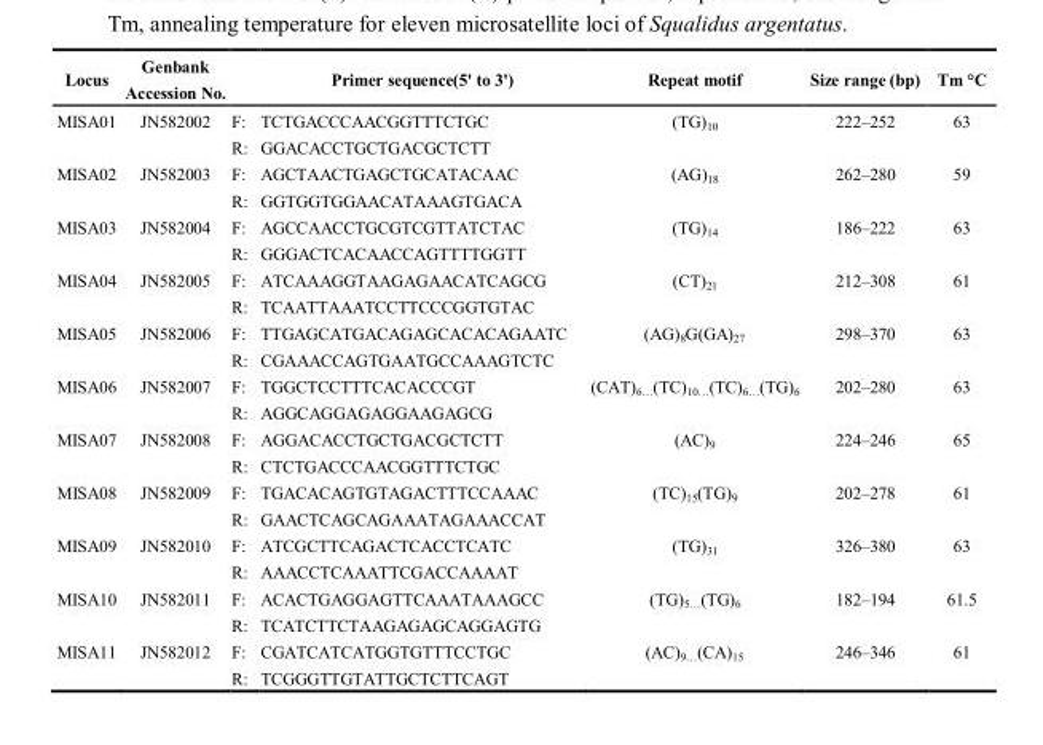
<table><thead><tr><td>Locus</td><td>Genbank Accession No.</td><td>Primer sequence(5&#x27; to 3&#x27;)</td><td>Repeat motif</td><td>Size range (bp)</td><td>Tm °C</td></tr></thead><tbody><tr><td rowspan="2">MISA01</td><td>JN582002</td><td>F: TCTGACCCAACGGTTTCTGC</td><td>(TG)<sub>10</sub></td><td>222–252</td><td>63</td></tr><tr><td></td><td>R: GGACACCTGCTGACGCTCTT</td><td></td><td></td><td></td></tr><tr><td rowspan="2">MISA02</td><td>JN582003</td><td>F: AGCTAACTGAGCTGCATACAAC</td><td>(AG)<sub>18</sub></td><td>262–280</td><td>59</td></tr><tr><td></td><td>R: GGTGGTGGAACATAAAGTGACA</td><td></td><td></td><td></td></tr><tr><td rowspan="2">MISA03</td><td>JN582004</td><td>F: AGCCAACCTGCGTCGTTATCTAC</td><td>(TG)<sub>14</sub></td><td>186–222</td><td>63</td></tr><tr><td></td><td>R: GGGACTCACAACCAGTTTTGGTT</td><td></td><td></td><td></td></tr><tr><td rowspan="2">MISA04</td><td>JN582005</td><td>F: ATCAAAGGTAAGAGAACATCAGCG</td><td>(CT)<sub>21</sub></td><td>212–308</td><td>61</td></tr><tr><td></td><td>R: TCAATTAAATCCTTCCCGGTGTAC</td><td></td><td></td><td></td></tr><tr><td rowspan="2">MISA05</td><td>JN582006</td><td>F: TTGAGCATGACAGAGCACACAGAATC</td><td>(AG)<sub>8</sub>G(GA)<sub>27</sub></td><td>298–370</td><td>63</td></tr><tr><td></td><td>R: CGAAACCAGTGAATGCCAAAGTCTC</td><td></td><td></td><td></td></tr><tr><td rowspan="2">MISA06</td><td>JN582007</td><td>F: TGGCTCCTTTCACACCCGT</td><td>(CAT)<sub>6…</sub>(TC)<sub>10…</sub>(TC)<sub>6…</sub>(TG)<sub>6</sub></td><td>202–280</td><td>63</td></tr><tr><td></td><td>R: AGGCAGGAGAGGAAGAGCG</td><td></td><td></td><td></td></tr><tr><td rowspan="2">MISA07</td><td>JN582008</td><td>F: AGGACACCTGCTGACGCTCTT</td><td>(AC)<sub>9</sub></td><td>224–246</td><td>65</td></tr><tr><td></td><td>R: CTCTGACCCAACGGTTTCTGC</td><td></td><td></td><td></td></tr><tr><td rowspan="2">MISA08</td><td>JN582009</td><td>F: TGACACAGTGTAGACTTTCCAAAC</td><td>(TC)<sub>15</sub>(TG)<sub>9</sub></td><td>202–278</td><td>61</td></tr><tr><td></td><td>R: GAACTCAGCAGAAATAGAAACCAT</td><td></td><td></td><td></td></tr><tr><td rowspan="2">MISA09</td><td>JN582010</td><td>F: ATCGCTTCAGACTCACCTCATC</td><td>(TG)<sub>31</sub></td><td>326–380</td><td>63</td></tr><tr><td></td><td>R: AAACCTCAAATTCGACCAAAAT</td><td></td><td></td><td></td></tr><tr><td rowspan="2">MISA10</td><td>JN582011</td><td>F: ACACTGAGGAGTTCAAATAAAGCC</td><td>(TG)<sub>5…</sub>(TG)<sub>6</sub></td><td>182–194</td><td>61.5</td></tr><tr><td></td><td>R: TCATCTTCTAAGAGAGCAGGAGTG</td><td></td><td></td><td></td></tr><tr><td rowspan="2">MISA11</td><td>JN582012</td><td>F: CGATCATCATGGTGTTTCCTGC</td><td>(AC)<sub>9…</sub>(CA)<sub>15</sub></td><td>246–346</td><td>61</td></tr><tr><td></td><td>R: TCGGGTTGTATTGCTCTTCAGT</td><td></td><td></td><td></td></tr></tbody></table>